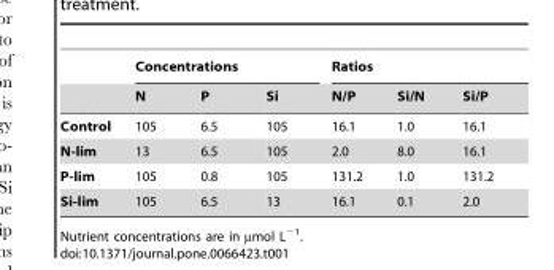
<table><thead><tr><td rowspan="2"></td><td colspan="3">Concentrations</td><td colspan="3">Ratios</td></tr><tr><td>N</td><td>P</td><td>Si</td><td>N/P</td><td>Si/N</td><td>Si/P</td></tr></thead><tbody><tr><td>Control</td><td>105</td><td>6.5</td><td>105</td><td>16.1</td><td>1.0</td><td>16.1</td></tr><tr><td>N-lim</td><td>13</td><td>6.5</td><td>105</td><td>2.0</td><td>8.0</td><td>16.1</td></tr><tr><td>P-lim</td><td>105</td><td>0.8</td><td>105</td><td>131.2</td><td>1.0</td><td>131.2</td></tr><tr><td>Si-lim</td><td>105</td><td>6.5</td><td>13</td><td>16.1</td><td>0.1</td><td>2.0</td></tr></tbody></table>